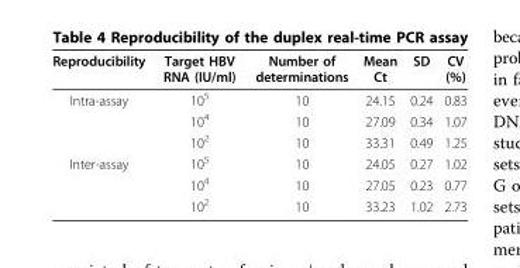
<table><thead><tr><td>Reproducibility</td><td>Target HBV RNA (IU/ml)</td><td>Number of determinations</td><td>Mean Ct</td><td>SD</td><td>CV (%)</td></tr></thead><tbody><tr><td rowspan="3">Intra-assay</td><td>10<sup>5</sup></td><td>10</td><td>24.15</td><td>0.24</td><td>0.83</td></tr><tr><td>10<sup>4</sup></td><td>10</td><td>27.09</td><td>0.34</td><td>1.07</td></tr><tr><td>10<sup>2</sup></td><td>10</td><td>33.31</td><td>0.49</td><td>1.25</td></tr><tr><td rowspan="3">Inter-assay</td><td>10<sup>5</sup></td><td>10</td><td>24.05</td><td>0.27</td><td>1.02</td></tr><tr><td>10<sup>4</sup></td><td>10</td><td>27.05</td><td>0.23</td><td>0.77</td></tr><tr><td>10<sup>2</sup></td><td>10</td><td>33.23</td><td>1.02</td><td>2.73</td></tr></tbody></table>